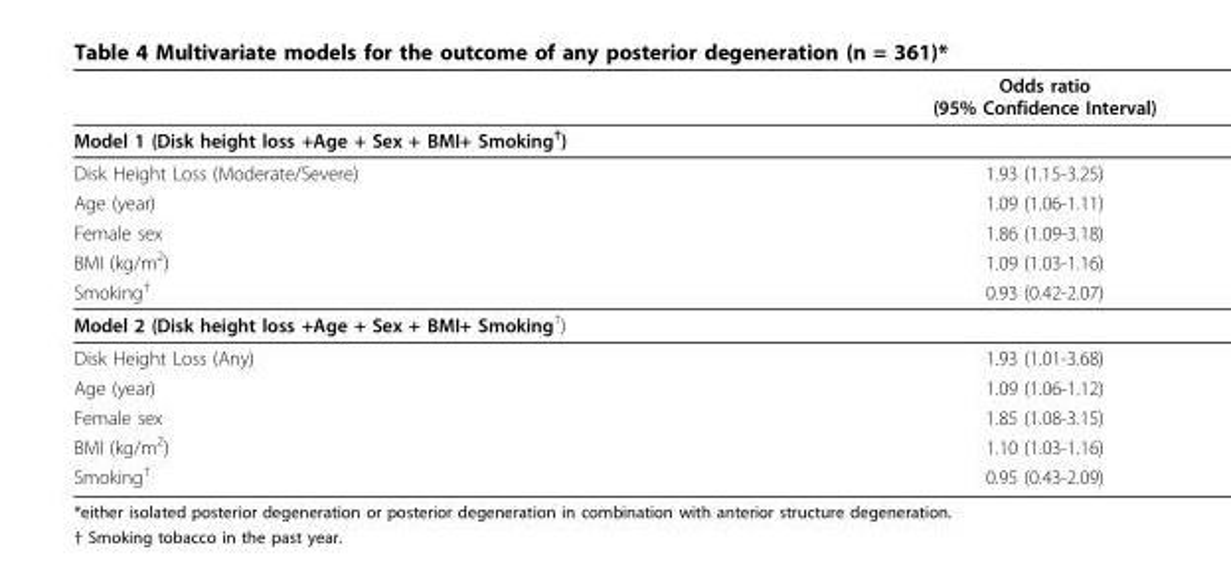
<table><thead><tr><td></td><td>Odds ratio (95% Confidence Interval)</td></tr></thead><tbody><tr><td colspan="2">Model 1 (Disk height loss +Age + Sex + BMI+ Smoking<sup>†</sup>)</td></tr><tr><td>Disk Height Loss (Moderate/Severe)</td><td>1.93 (1.15-3.25)</td></tr><tr><td>Age (year)</td><td>1.09 (1.06-1.11)</td></tr><tr><td>Female sex</td><td>1.86 (1.09-3.18)</td></tr><tr><td>BMI (kg/m<sup>2</sup>)</td><td>1.09 (1.03-1.16)</td></tr><tr><td>Smoking<sup>†</sup></td><td>0.93 (0.42-2.07)</td></tr><tr><td colspan="2">Model 2 (Disk height loss +Age + Sex + BMI+ Smoking<sup>†</sup>)</td></tr><tr><td>Disk Height Loss (Any)</td><td>1.93 (1.01-3.68)</td></tr><tr><td>Age (year)</td><td>1.09 (1.06-1.12)</td></tr><tr><td>Female sex</td><td>1.85 (1.08-3.15)</td></tr><tr><td>BMI (kg/m<sup>2</sup>)</td><td>1.10 (1.03-1.16)</td></tr><tr><td>Smoking<sup>†</sup></td><td>0.95 (0.43-2.09)</td></tr></tbody></table>